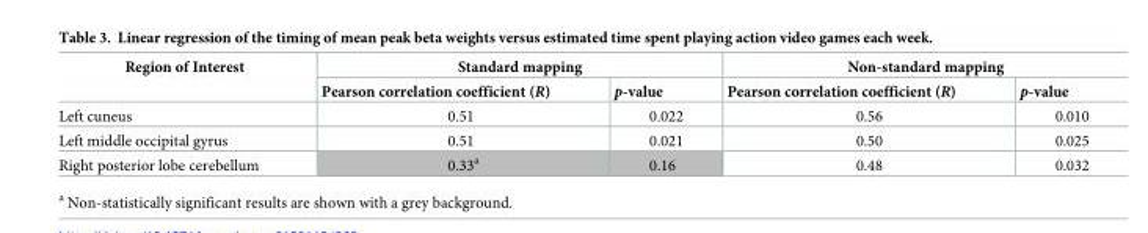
<table><thead><tr><td rowspan="2">Region of Interest</td><td colspan="2">Standard mapping</td><td colspan="2">Non-standard mapping</td></tr><tr><td>Pearson correlation coefficient (R)</td><td>p-value</td><td>Pearson correlation coefficient (R)</td><td>p-value</td></tr></thead><tbody><tr><td>Left cuneus</td><td>0.51</td><td>0.022</td><td>0.56</td><td>0.010</td></tr><tr><td>Left middle occipital gyrus</td><td>0.51</td><td>0.021</td><td>0.50</td><td>0.025</td></tr><tr><td>Right posterior lobe cerebellum</td><td>0.33<sup>a</sup></td><td>0.16</td><td>0.48</td><td>0.032</td></tr></tbody></table>